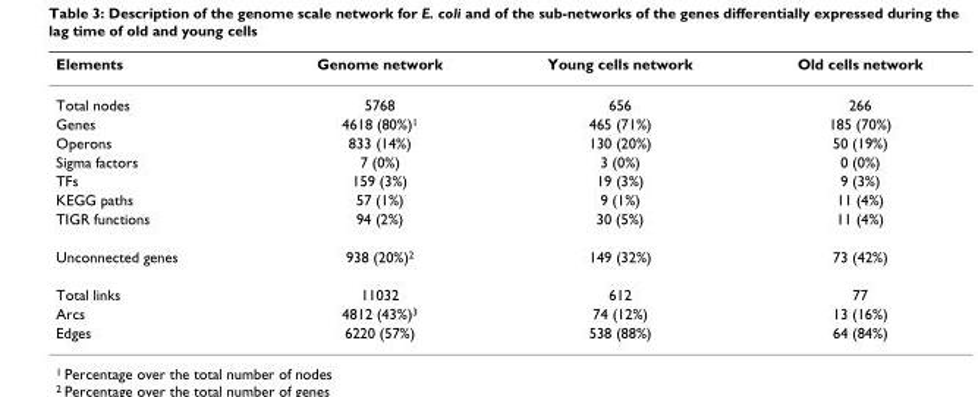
<table><thead><tr><td>Elements</td><td>Genome network</td><td>Young cells network</td><td>Old cells network</td></tr></thead><tbody><tr><td>Total nodes</td><td>5768</td><td>656</td><td>266</td></tr><tr><td>Genes</td><td>4618 (80%)<sup>1</sup></td><td>465 (71%)</td><td>185 (70%)</td></tr><tr><td>Operons</td><td>833 (14%)</td><td>130 (20%)</td><td>50 (19%)</td></tr><tr><td>Sigma factors</td><td>7 (0%)</td><td>3 (0%)</td><td>0 (0%)</td></tr><tr><td>TFs</td><td>159 (3%)</td><td>19 (3%)</td><td>9 (3%)</td></tr><tr><td>KEGG paths</td><td>57 (1%)</td><td>9 (1%)</td><td>11 (4%)</td></tr><tr><td>TIGR functions</td><td>94 (2%)</td><td>30 (5%)</td><td>11 (4%)</td></tr><tr><td>Unconnected genes</td><td>938 (20%)<sup>2</sup></td><td>149 (32%)</td><td>73 (42%)</td></tr><tr><td>Total links</td><td>11032</td><td>612</td><td>77</td></tr><tr><td>Arcs</td><td>4812 (43%)<sup>3</sup></td><td>74 (12%)</td><td>13 (16%)</td></tr><tr><td>Edges</td><td>6220 (57%)</td><td>538 (88%)</td><td>64 (84%)</td></tr></tbody></table>